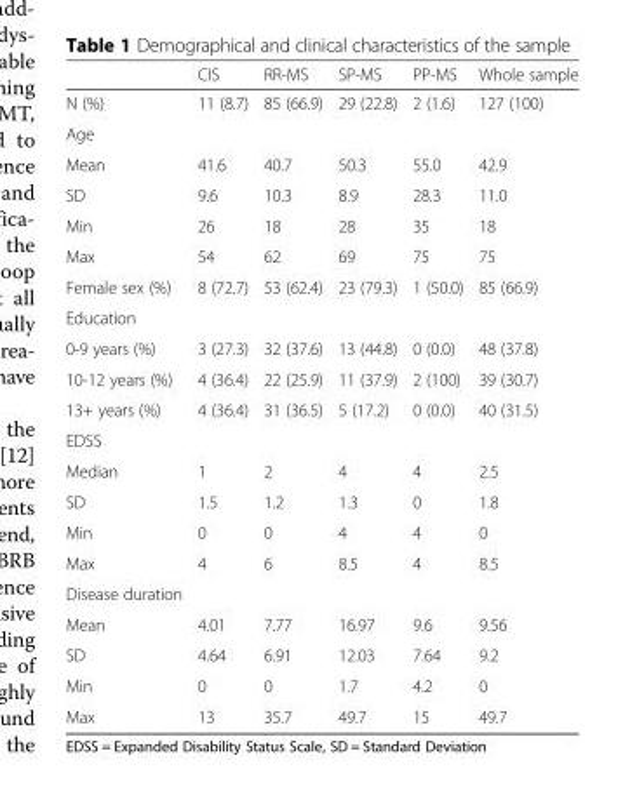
<table><thead><tr><td></td><td>CIS</td><td>RR-MS</td><td>SP-MS</td><td>PP-MS</td><td>Whole sample</td></tr></thead><tbody><tr><td>N (%)</td><td>11 (8.7)</td><td>85 (66.9)</td><td>29 (22.8)</td><td>2 (1.6)</td><td>127 (100)</td></tr><tr><td colspan="6">Age</td></tr><tr><td>Mean</td><td>41.6</td><td>40.7</td><td>50.3</td><td>55.0</td><td>42.9</td></tr><tr><td>SD</td><td>9.6</td><td>10.3</td><td>8.9</td><td>28.3</td><td>11.0</td></tr><tr><td>Min</td><td>26</td><td>18</td><td>28</td><td>35</td><td>18</td></tr><tr><td>Max</td><td>54</td><td>62</td><td>69</td><td>75</td><td>75</td></tr><tr><td>Female sex (%)</td><td>8 (72.7)</td><td>53 (62.4)</td><td>23 (79.3)</td><td>1 (50.0)</td><td>85 (66.9)</td></tr><tr><td colspan="6">Education</td></tr><tr><td>0-9 years (%)</td><td>3 (27.3)</td><td>32 (37.6)</td><td>13 (44.8)</td><td>0 (0.0)</td><td>48 (37.8)</td></tr><tr><td>10-12 years (%)</td><td>4 (36.4)</td><td>22 (25.9)</td><td>11 (37.9)</td><td>2 (100)</td><td>39 (30.7)</td></tr><tr><td>13+ years (%)</td><td>4 (36.4)</td><td>31 (36.5)</td><td>5 (17.2)</td><td>0 (0.0)</td><td>40 (31.5)</td></tr><tr><td colspan="6">EDSS</td></tr><tr><td>Median</td><td>1</td><td>2</td><td>4</td><td>4</td><td>2.5</td></tr><tr><td>SD</td><td>1.5</td><td>1.2</td><td>1.3</td><td>0</td><td>1.8</td></tr><tr><td>Min</td><td>0</td><td>0</td><td>4</td><td>4</td><td>0</td></tr><tr><td>Max</td><td>4</td><td>6</td><td>8.5</td><td>4</td><td>8.5</td></tr><tr><td colspan="6">Disease duration</td></tr><tr><td>Mean</td><td>4.01</td><td>7.77</td><td>16.97</td><td>9.6</td><td>9.56</td></tr><tr><td>SD</td><td>4.64</td><td>6.91</td><td>12.03</td><td>7.64</td><td>9.2</td></tr><tr><td>Min</td><td>0</td><td>0</td><td>1.7</td><td>4.2</td><td>0</td></tr><tr><td>Max</td><td>13</td><td>35.7</td><td>49.7</td><td>15</td><td>49.7</td></tr></tbody></table>